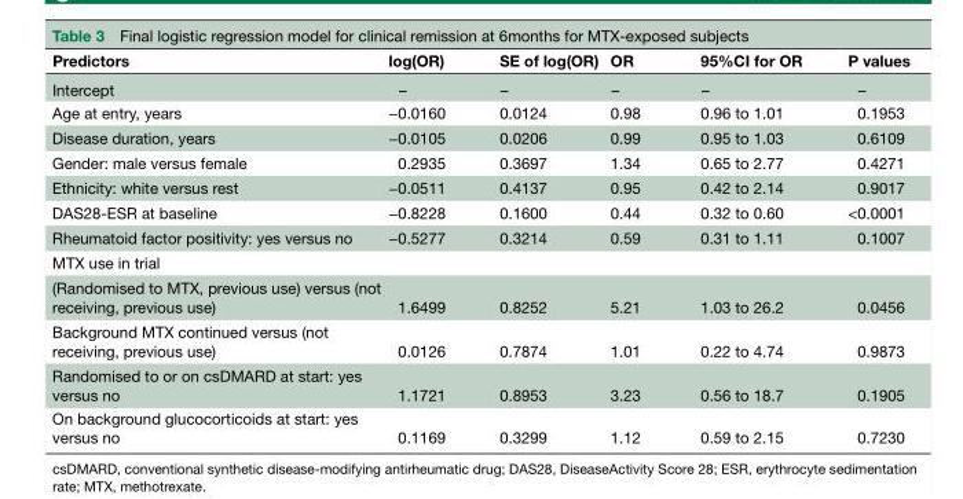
<table><thead><tr><td>Predictors</td><td>log(OR)</td><td>SE of log(OR)</td><td>OR</td><td>95%CI for OR</td><td>P values</td></tr></thead><tbody><tr><td>Intercept</td><td>–</td><td>–</td><td>–</td><td>–</td><td>–</td></tr><tr><td>Age at entry, years</td><td>−0.0160</td><td>0.0124</td><td>0.98</td><td>0.96 to 1.01</td><td>0.1953</td></tr><tr><td>Disease duration, years</td><td>−0.0105</td><td>0.0206</td><td>0.99</td><td>0.95 to 1.03</td><td>0.6109</td></tr><tr><td>Gender: male versus female</td><td>0.2935</td><td>0.3697</td><td>1.34</td><td>0.65 to 2.77</td><td>0.4271</td></tr><tr><td>Ethnicity: white versus rest</td><td>−0.0511</td><td>0.4137</td><td>0.95</td><td>0.42 to 2.14</td><td>0.9017</td></tr><tr><td>DAS28-ESR at baseline</td><td>−0.8228</td><td>0.1600</td><td>0.44</td><td>0.32 to 0.60</td><td>&lt;0.0001</td></tr><tr><td>Rheumatoid factor positivity: yes versus no</td><td>−0.5277</td><td>0.3214</td><td>0.59</td><td>0.31 to 1.11</td><td>0.1007</td></tr><tr><td colspan="6">MTX use in trial</td></tr><tr><td>(Randomised to MTX, previous use) versus (not receiving, previous use)</td><td>1.6499</td><td>0.8252</td><td>5.21</td><td>1.03 to 26.2</td><td>0.0456</td></tr><tr><td>Background MTX continued versus (not receiving, previous use)</td><td>0.0126</td><td>0.7874</td><td>1.01</td><td>0.22 to 4.74</td><td>0.9873</td></tr><tr><td>Randomised to or on csDMARD at start: yes versus no</td><td>1.1721</td><td>0.8953</td><td>3.23</td><td>0.56 to 18.7</td><td>0.1905</td></tr><tr><td>On background glucocorticoids at start: yes versus no</td><td>0.1169</td><td>0.3299</td><td>1.12</td><td>0.59 to 2.15</td><td>0.7230</td></tr></tbody></table>